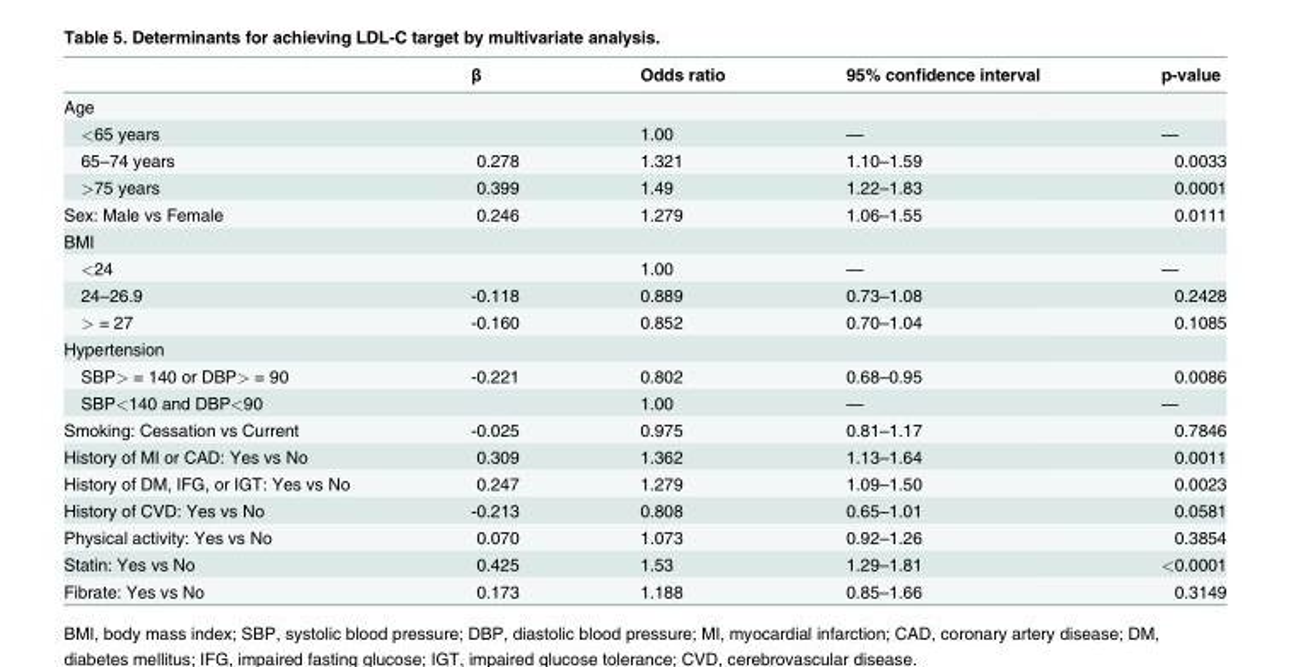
<table><thead><tr><td></td><td>β</td><td>Odds ratio</td><td>95% confidence interval</td><td>p-value</td></tr></thead><tbody><tr><td colspan="5">Age</td></tr><tr><td>&lt;65 years</td><td></td><td>1.00</td><td>—</td><td>—</td></tr><tr><td>65–74 years</td><td>0.278</td><td>1.321</td><td>1.10–1.59</td><td>0.0033</td></tr><tr><td>&gt;75 years</td><td>0.399</td><td>1.49</td><td>1.22–1.83</td><td>0.0001</td></tr><tr><td>Sex: Male vs Female</td><td>0.246</td><td>1.279</td><td>1.06–1.55</td><td>0.0111</td></tr><tr><td colspan="5">BMI</td></tr><tr><td>&lt;24</td><td></td><td>1.00</td><td>—</td><td>—</td></tr><tr><td>24–26.9</td><td>-0.118</td><td>0.889</td><td>0.73–1.08</td><td>0.2428</td></tr><tr><td>&gt; = 27</td><td>-0.160</td><td>0.852</td><td>0.70–1.04</td><td>0.1085</td></tr><tr><td colspan="5">Hypertension</td></tr><tr><td>SBP&gt; = 140 or DBP&gt; = 90</td><td>-0.221</td><td>0.802</td><td>0.68–0.95</td><td>0.0086</td></tr><tr><td>SBP&lt;140 and DBP&lt;90</td><td></td><td>1.00</td><td>—</td><td>—</td></tr><tr><td>Smoking: Cessation vs Current</td><td>-0.025</td><td>0.975</td><td>0.81–1.17</td><td>0.7846</td></tr><tr><td>History of MI or CAD: Yes vs No</td><td>0.309</td><td>1.362</td><td>1.13–1.64</td><td>0.0011</td></tr><tr><td>History of DM, IFG, or IGT: Yes vs No</td><td>0.247</td><td>1.279</td><td>1.09–1.50</td><td>0.0023</td></tr><tr><td>History of CVD: Yes vs No</td><td>-0.213</td><td>0.808</td><td>0.65–1.01</td><td>0.0581</td></tr><tr><td>Physical activity: Yes vs No</td><td>0.070</td><td>1.073</td><td>0.92–1.26</td><td>0.3854</td></tr><tr><td>Statin: Yes vs No</td><td>0.425</td><td>1.53</td><td>1.29–1.81</td><td>&lt;0.0001</td></tr><tr><td>Fibrate: Yes vs No</td><td>0.173</td><td>1.188</td><td>0.85–1.66</td><td>0.3149</td></tr></tbody></table>